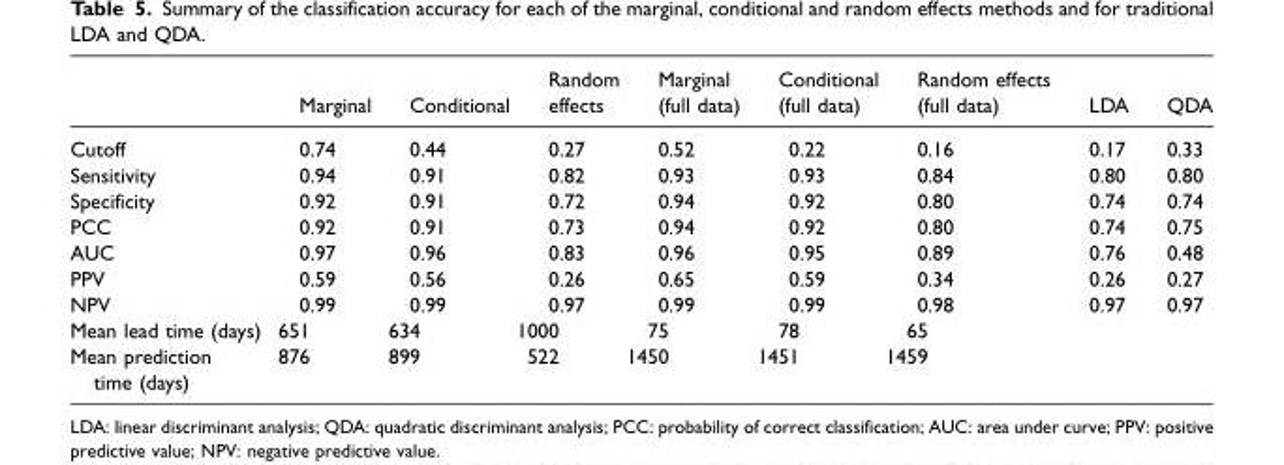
<table><thead><tr><td></td><td>Marginal</td><td>Conditional</td><td>Random effects</td><td>Marginal (full data)</td><td>Conditional (full data)</td><td>Random effects (full data)</td><td>LDA</td><td>QDA</td></tr></thead><tbody><tr><td>Cutoff</td><td>0.74</td><td>0.44</td><td>0.27</td><td>0.52</td><td>0.22</td><td>0.16</td><td>0.17</td><td>0.33</td></tr><tr><td>Sensitivity</td><td>0.94</td><td>0.91</td><td>0.82</td><td>0.93</td><td>0.93</td><td>0.84</td><td>0.80</td><td>0.80</td></tr><tr><td>Specificity</td><td>0.92</td><td>0.91</td><td>0.72</td><td>0.94</td><td>0.92</td><td>0.80</td><td>0.74</td><td>0.74</td></tr><tr><td>PCC</td><td>0.92</td><td>0.91</td><td>0.73</td><td>0.94</td><td>0.92</td><td>0.80</td><td>0.74</td><td>0.75</td></tr><tr><td>AUC</td><td>0.97</td><td>0.96</td><td>0.83</td><td>0.96</td><td>0.95</td><td>0.89</td><td>0.76</td><td>0.48</td></tr><tr><td>PPV</td><td>0.59</td><td>0.56</td><td>0.26</td><td>0.65</td><td>0.59</td><td>0.34</td><td>0.26</td><td>0.27</td></tr><tr><td>NPV</td><td>0.99</td><td>0.99</td><td>0.97</td><td>0.99</td><td>0.99</td><td>0.98</td><td>0.97</td><td>0.97</td></tr><tr><td>Mean lead time (days)</td><td>651</td><td>634</td><td>1000</td><td>75</td><td>78</td><td>65</td><td></td><td></td></tr><tr><td>Mean prediction time (days)</td><td>876</td><td>899</td><td>522</td><td>1450</td><td>1451</td><td>1459</td><td></td><td></td></tr></tbody></table>